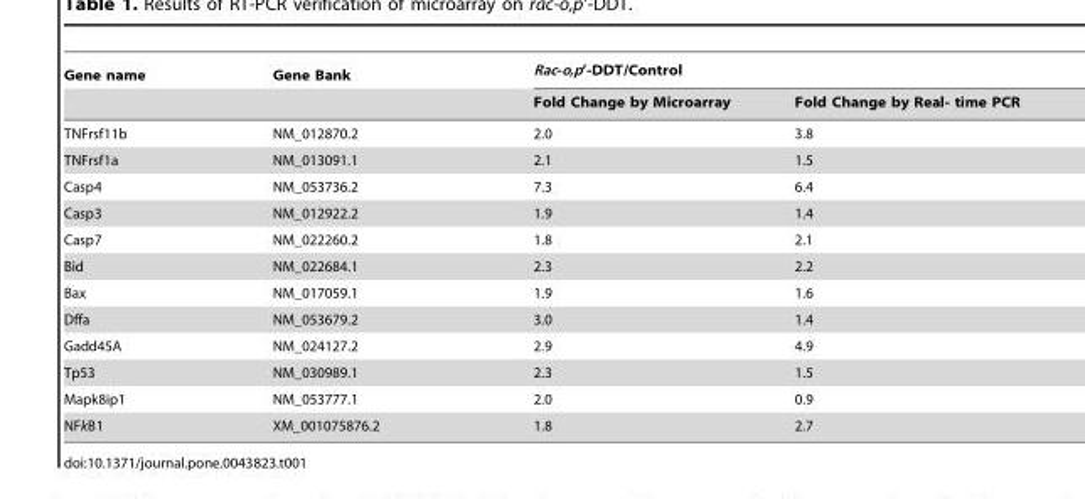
<table><thead><tr><td rowspan="2">Gene name</td><td rowspan="2">Gene Bank</td><td colspan="2">Rac-o,p’-DDT/Control</td></tr><tr><td>Fold Change by Microarray</td><td>Fold Change by Real- time PCR</td></tr></thead><tbody><tr><td>TNFrsf11b</td><td>NM_012870.2</td><td>2.0</td><td>3.8</td></tr><tr><td>TNFrsf1a</td><td>NM_013091.1</td><td>2.1</td><td>1.5</td></tr><tr><td>Casp4</td><td>NM_053736.2</td><td>7.3</td><td>6.4</td></tr><tr><td>Casp3</td><td>NM_012922.2</td><td>1.9</td><td>1.4</td></tr><tr><td>Casp7</td><td>NM_022260.2</td><td>1.8</td><td>2.1</td></tr><tr><td>Bid</td><td>NM_022684.1</td><td>2.3</td><td>2.2</td></tr><tr><td>Bax</td><td>NM_017059.1</td><td>1.9</td><td>1.6</td></tr><tr><td>Dffa</td><td>NM_053679.2</td><td>3.0</td><td>1.4</td></tr><tr><td>Gadd45A</td><td>NM_024127.2</td><td>2.9</td><td>4.9</td></tr><tr><td>Tp53</td><td>NM_030989.1</td><td>2.3</td><td>1.5</td></tr><tr><td>Mapk8ip1</td><td>NM_053777.1</td><td>2.0</td><td>0.9</td></tr><tr><td>NFkB1</td><td>XM_001075876.2</td><td>1.8</td><td>2.7</td></tr></tbody></table>